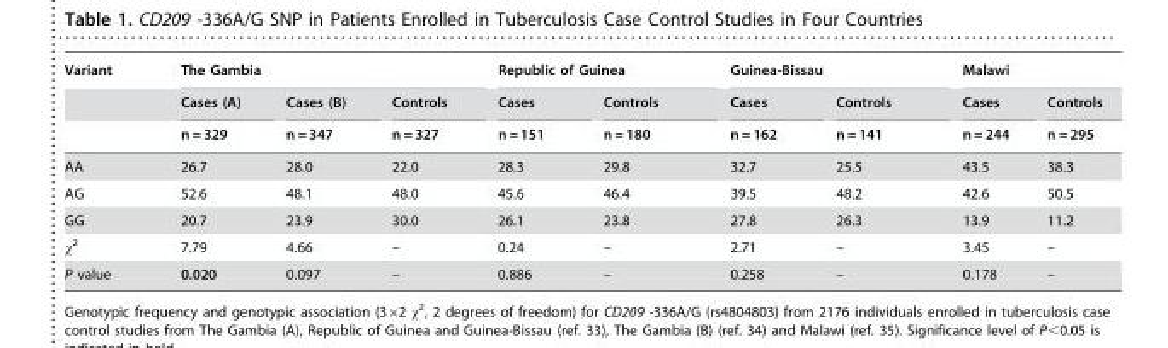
<table><thead><tr><td rowspan="3">Variant</td><td colspan="3">The Gambia</td><td colspan="2">Republic of Guinea</td><td colspan="2">Guinea-Bissau</td><td colspan="2">Malawi</td></tr><tr><td rowspan="2">Cases (A) n = 329</td><td rowspan="2">Cases (B) n = 347</td><td rowspan="2">Controls n = 327</td><td rowspan="2">Cases n = 151</td><td rowspan="2">Controls n = 180</td><td rowspan="2">Cases n = 162</td><td rowspan="2">Controls n = 141</td><td rowspan="2">Cases n = 244</td><td rowspan="2">Controls n = 295</td></tr><tr></tr></thead><tbody><tr><td>AA</td><td>26.7</td><td>28.0</td><td>22.0</td><td>28.3</td><td>29.8</td><td>32.7</td><td>25.5</td><td>43.5</td><td>38.3</td></tr><tr><td>AG</td><td>52.6</td><td>48.1</td><td>48.0</td><td>45.6</td><td>46.4</td><td>39.5</td><td>48.2</td><td>42.6</td><td>50.5</td></tr><tr><td>GG</td><td>20.7</td><td>23.9</td><td>30.0</td><td>26.1</td><td>23.8</td><td>27.8</td><td>26.3</td><td>13.9</td><td>11.2</td></tr><tr><td>χ<sup>2</sup></td><td>7.79</td><td>4.66</td><td>–</td><td>0.24</td><td>–</td><td>2.71</td><td>–</td><td>3.45</td><td>–</td></tr><tr><td>P value</td><td>0.020</td><td>0.097</td><td>–</td><td>0.886</td><td>–</td><td>0.258</td><td>–</td><td>0.178</td><td>–</td></tr></tbody></table>